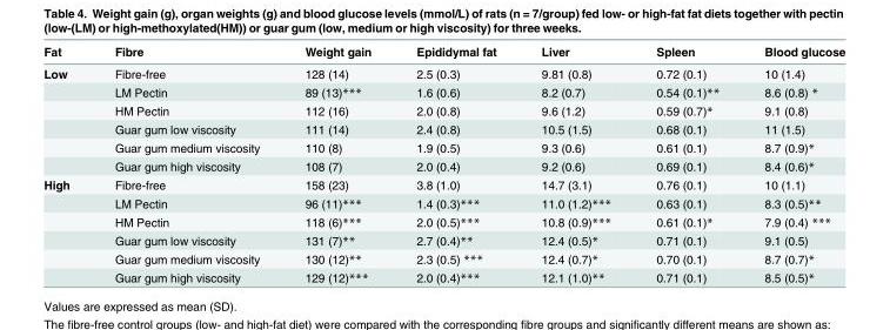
<table><thead><tr><td>Fat</td><td>Fibre</td><td>Weight gain</td><td>Epididymal fat</td><td>Liver</td><td>Spleen</td><td>Blood glucose</td></tr></thead><tbody><tr><td rowspan="6">Low</td><td>Fibre-free</td><td>128 (14)</td><td>2.5 (0.3)</td><td>9.81 (0.8)</td><td>0.72 (0.1)</td><td>10 (1.4)</td></tr><tr><td>LM Pectin</td><td>89 (13)***</td><td>1.6 (0.6)</td><td>8.2 (0.7)</td><td>0.54 (0.1)**</td><td>8.6 (0.8) *</td></tr><tr><td>HM Pectin</td><td>112 (16)</td><td>2.0 (0.8)</td><td>9.6 (1.2)</td><td>0.59 (0.7)*</td><td>9.1 (0.8)</td></tr><tr><td>Guar gum low viscosity</td><td>111 (14)</td><td>2.4 (0.8)</td><td>10.5 (1.5)</td><td>0.68 (0.1)</td><td>11 (1.5)</td></tr><tr><td>Guar gum medium viscosity</td><td>110 (8)</td><td>1.9 (0.5)</td><td>9.3 (0.6)</td><td>0.61 (0.1)</td><td>8.7 (0.9)*</td></tr><tr><td>Guar gum high viscosity</td><td>108 (7)</td><td>2.0 (0.4)</td><td>9.2 (0.6)</td><td>0.69 (0.1)</td><td>8.4 (0.6)*</td></tr><tr><td rowspan="6">High</td><td>Fibre-free</td><td>158 (23)</td><td>3.8 (1.0)</td><td>14.7 (3.1)</td><td>0.76 (0.1)</td><td>10 (1.1)</td></tr><tr><td>LM Pectin</td><td>96 (11)***</td><td>1.4 (0.3)***</td><td>11.0 (1.2)***</td><td>0.63 (0.1)</td><td>8.3 (0.5)**</td></tr><tr><td>HM Pectin</td><td>118 (6)***</td><td>2.0 (0.5)***</td><td>10.8 (0.9)***</td><td>0.61 (0.1)*</td><td>7.9 (0.4) ***</td></tr><tr><td>Guar gum low viscosity</td><td>131 (7)**</td><td>2.7 (0.4)**</td><td>12.4 (0.5)*</td><td>0.71 (0.1)</td><td>9.1 (0.5)</td></tr><tr><td>Guar gum medium viscosity</td><td>130 (12)**</td><td>2.3 (0.5) ***</td><td>12.4 (0.7)*</td><td>0.70 (0.1)</td><td>8.7 (0.7)*</td></tr><tr><td>Guar gum high viscosity</td><td>129 (12)***</td><td>2.0 (0.4)***</td><td>12.1 (1.0)**</td><td>0.71 (0.1)</td><td>8.5 (0.5)*</td></tr></tbody></table>